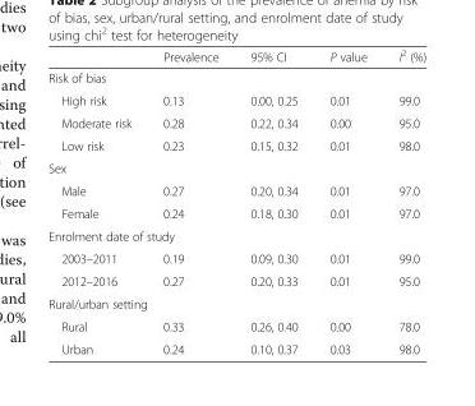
<table><thead><tr><td></td><td>Prevalence</td><td>95% CI</td><td>P value</td><td>I<sup>2</sup> (%)</td></tr></thead><tbody><tr><td colspan="5">Risk of bias</td></tr><tr><td>High risk</td><td>0.13</td><td>0.00, 0.25</td><td>0.01</td><td>99.0</td></tr><tr><td>Moderate risk</td><td>0.28</td><td>0.22, 0.34</td><td>0.00</td><td>95.0</td></tr><tr><td>Low risk</td><td>0.23</td><td>0.15, 0.32</td><td>0.01</td><td>98.0</td></tr><tr><td colspan="5">Sex</td></tr><tr><td>Male</td><td>0.27</td><td>0.20, 0.34</td><td>0.01</td><td>97.0</td></tr><tr><td>Female</td><td>0.24</td><td>0.18, 0.30</td><td>0.01</td><td>97.0</td></tr><tr><td colspan="5">Enrolment date of study</td></tr><tr><td>2003–2011</td><td>0.19</td><td>0.09, 0.30</td><td>0.01</td><td>99.0</td></tr><tr><td>2012–2016</td><td>0.27</td><td>0.20, 0.33</td><td>0.01</td><td>95.0</td></tr><tr><td colspan="5">Rural/urban setting</td></tr><tr><td>Rural</td><td>0.33</td><td>0.26, 0.40</td><td>0.00</td><td>78.0</td></tr><tr><td>Urban</td><td>0.24</td><td>0.10, 0.37</td><td>0.03</td><td>98.0</td></tr></tbody></table>